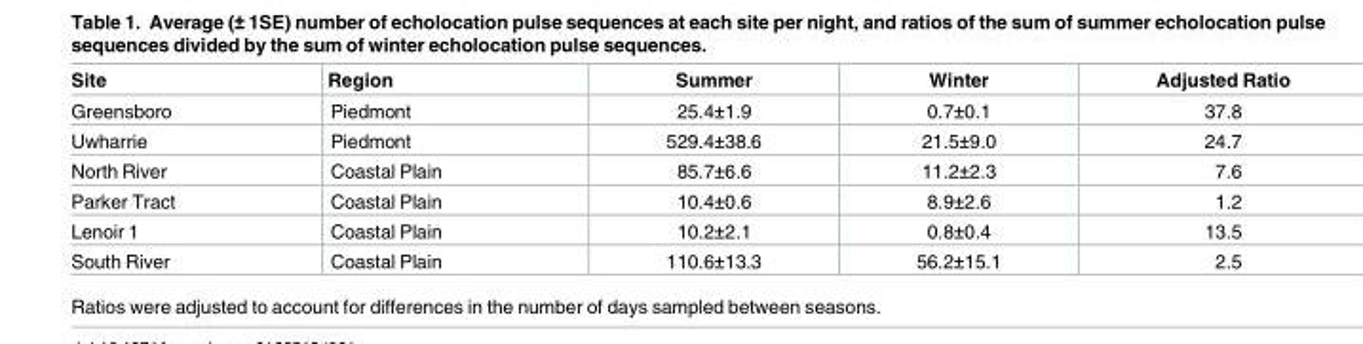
<table><thead><tr><td>Site</td><td>Region</td><td>Summer</td><td>Winter</td><td>Adjusted Ratio</td></tr></thead><tbody><tr><td>Greensboro</td><td>Piedmont</td><td>25.4±1.9</td><td>0.7±0.1</td><td>37.8</td></tr><tr><td>Uwharrie</td><td>Piedmont</td><td>529.4±38.6</td><td>21.5±9.0</td><td>24.7</td></tr><tr><td>North River</td><td>Coastal Plain</td><td>85.7±6.6</td><td>11.2±2.3</td><td>7.6</td></tr><tr><td>Parker Tract</td><td>Coastal Plain</td><td>10.4±0.6</td><td>8.9±2.6</td><td>1.2</td></tr><tr><td>Lenoir 1</td><td>Coastal Plain</td><td>10.2±2.1</td><td>0.8±0.4</td><td>13.5</td></tr><tr><td>South River</td><td>Coastal Plain</td><td>110.6±13.3</td><td>56.2±15.1</td><td>2.5</td></tr></tbody></table>